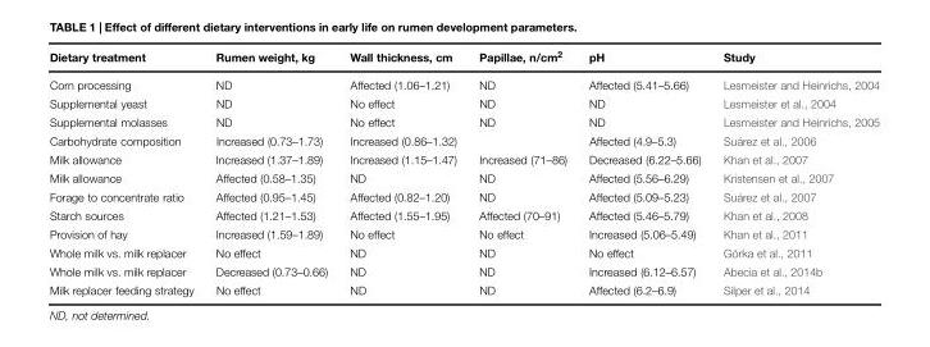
<table><thead><tr><td>Dietary treatment</td><td>Rumen weight, kg</td><td>Wall thickness, cm</td><td>Papillae, n/cm<sup>2</sup></td><td>pH</td><td>Study</td></tr></thead><tbody><tr><td>Corn processing</td><td>ND</td><td>Affected (1.06–1.21)</td><td>ND</td><td>Affected (5.41–5.66)</td><td>Lesmeister and Heinrichs, 2004</td></tr><tr><td>Supplemental yeast</td><td>ND</td><td>No effect</td><td>ND</td><td>ND</td><td>Lesmeister et al., 2004</td></tr><tr><td>Supplemental molasses</td><td>ND</td><td>No effect</td><td>ND</td><td>ND</td><td>Lesmeister and Heinrichs, 2005</td></tr><tr><td>Carbohydrate composition</td><td>Increased (0.73–1.73)</td><td>Increased (0.86–1.32)</td><td></td><td>Affected (4.9–5.3)</td><td>Suárez et al., 2006</td></tr><tr><td>Milk allowance</td><td>Increased (1.37–1.89)</td><td>Increased (1.15–1.47)</td><td>Increased (71–86)</td><td>Decreased (6.22–5.66)</td><td>Khan et al., 2007</td></tr><tr><td>Milk allowance</td><td>Affected (0.58–1.35)</td><td>ND</td><td>ND</td><td>Affected (5.56–6.29)</td><td>Kristensen et al., 2007</td></tr><tr><td>Forage to concentrate ratio</td><td>Affected (0.95–1.45)</td><td>Affected (0.82–1.20)</td><td>ND</td><td>Affected (5.09–5.23)</td><td>Suárez et al., 2007</td></tr><tr><td>Starch sources</td><td>Affected (1.21–1.53)</td><td>Affected (1.55–1.95)</td><td>Affected (70–91)</td><td>Affected (5.46–5.79)</td><td>Khan et al., 2008</td></tr><tr><td>Provision of hay</td><td>Increased (1.59–1.89)</td><td>No effect</td><td>No effect</td><td>Increased (5.06–5.49)</td><td>Khan et al., 2011</td></tr><tr><td>Whole milk vs. milk replacer</td><td>No effect</td><td>ND</td><td>ND</td><td>No effect</td><td>Górka et al., 2011</td></tr><tr><td>Whole milk vs. milk replacer</td><td>Decreased (0.73–0.66)</td><td>ND</td><td>ND</td><td>Increased (6.12–6.57)</td><td>Abecia et al., 2014b</td></tr><tr><td>Milk replacer feeding strategy</td><td>No effect</td><td>ND</td><td>ND</td><td>Affected (6.2–6.9)</td><td>Silper et al., 2014</td></tr></tbody></table>